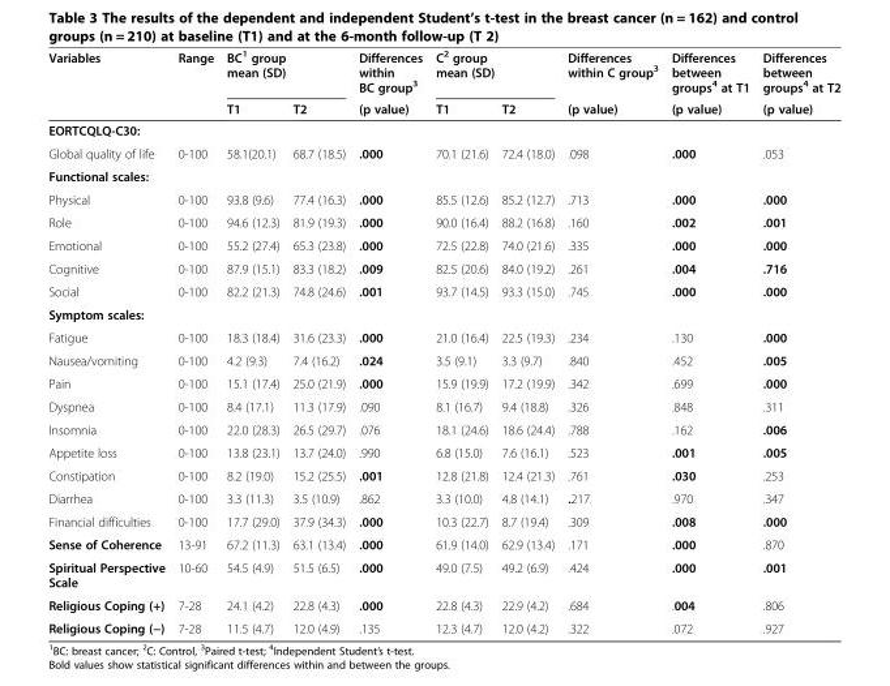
<table><thead><tr><td rowspan="2">Variables</td><td rowspan="2">Range</td><td colspan="2">BC<sup>1</sup> group mean (SD)</td><td rowspan="2">Differences within BC group<sup>3</sup> (p value)</td><td colspan="2">C<sup>2</sup> group mean (SD)</td><td rowspan="2">Differences within C group<sup>3</sup> (p value)</td><td rowspan="2">Differences between groups<sup>4</sup> at T1 (p value)</td><td rowspan="2">Differences between groups<sup>4</sup> at T2 (p value)</td></tr><tr><td>T1</td><td>T2</td><td>T1</td><td>T2</td></tr></thead><tbody><tr><td colspan="10">EORTCQLQ-C30:</td></tr><tr><td>Global quality of life</td><td>0-100</td><td>58.1(20.1)</td><td>68.7 (18.5)</td><td>.000</td><td>70.1 (21.6)</td><td>72.4 (18.0)</td><td>.098</td><td>.000</td><td>.053</td></tr><tr><td colspan="10">Functional scales:</td></tr><tr><td>Physical</td><td>0-100</td><td>93.8 (9.6)</td><td>77.4 (16.3)</td><td>.000</td><td>85.5 (12.6)</td><td>85.2 (12.7)</td><td>.713</td><td>.000</td><td>.000</td></tr><tr><td>Role</td><td>0-100</td><td>94.6 (12.3)</td><td>81.9 (19.3)</td><td>.000</td><td>90.0 (16.4)</td><td>88.2 (16.8)</td><td>.160</td><td>.002</td><td>.001</td></tr><tr><td>Emotional</td><td>0-100</td><td>55.2 (27.4)</td><td>65.3 (23.8)</td><td>.000</td><td>72.5 (22.8)</td><td>74.0 (21.6)</td><td>.335</td><td>.000</td><td>.000</td></tr><tr><td>Cognitive</td><td>0-100</td><td>87.9 (15.1)</td><td>83.3 (18.2)</td><td>.009</td><td>82.5 (20.6)</td><td>84.0 (19.2)</td><td>.261</td><td>.004</td><td>.716</td></tr><tr><td>Social</td><td>0-100</td><td>82.2 (21.3)</td><td>74.8 (24.6)</td><td>.001</td><td>93.7 (14.5)</td><td>93.3 (15.0)</td><td>.745</td><td>.000</td><td>.000</td></tr><tr><td colspan="10">Symptom scales:</td></tr><tr><td>Fatigue</td><td>0-100</td><td>18.3 (18.4)</td><td>31.6 (23.3)</td><td>.000</td><td>21.0 (16.4)</td><td>22.5 (19.3)</td><td>.234</td><td>.130</td><td>.000</td></tr><tr><td>Nausea/vomiting</td><td>0-100</td><td>4.2 (9.3)</td><td>7.4 (16.2)</td><td>.024</td><td>3.5 (9.1)</td><td>3.3 (9.7)</td><td>.840</td><td>.452</td><td>.005</td></tr><tr><td>Pain</td><td>0-100</td><td>15.1 (17.4)</td><td>25.0 (21.9)</td><td>.000</td><td>15.9 (19.9)</td><td>17.2 (19.9)</td><td>.342</td><td>.699</td><td>.000</td></tr><tr><td>Dyspnea</td><td>0-100</td><td>8.4 (17.1)</td><td>11.3 (17.9)</td><td>.090</td><td>8.1 (16.7)</td><td>9.4 (18.8)</td><td>.326</td><td>.848</td><td>.311</td></tr><tr><td>Insomnia</td><td>0-100</td><td>22.0 (28.3)</td><td>26.5 (29.7)</td><td>.076</td><td>18.1 (24.6)</td><td>18.6 (24.4)</td><td>.788</td><td>.162</td><td>.006</td></tr><tr><td>Appetite loss</td><td>0-100</td><td>13.8 (23.1)</td><td>13.7 (24.0)</td><td>.990</td><td>6.8 (15.0)</td><td>7.6 (16.1)</td><td>.523</td><td>.001</td><td>.005</td></tr><tr><td>Constipation</td><td>0-100</td><td>8.2 (19.0)</td><td>15.2 (25.5)</td><td>.001</td><td>12.8 (21.8)</td><td>12.4 (21.3)</td><td>.761</td><td>.030</td><td>.253</td></tr><tr><td>Diarrhea</td><td>0-100</td><td>3.3 (11.3)</td><td>3.5 (10.9)</td><td>.862</td><td>3.3 (10.0)</td><td>4.8 (14.1)</td><td>.217</td><td>.970</td><td>.347</td></tr><tr><td>Financial difficulties</td><td>0-100</td><td>17.7 (29.0)</td><td>37.9 (34.3)</td><td>.000</td><td>10.3 (22.7)</td><td>8.7 (19.4)</td><td>.309</td><td>.008</td><td>.000</td></tr><tr><td>Sense of Coherence</td><td>13-91</td><td>67.2 (11.3)</td><td>63.1 (13.4)</td><td>.000</td><td>61.9 (14.0)</td><td>62.9 (13.4)</td><td>.171</td><td>.000</td><td>.870</td></tr><tr><td>Spiritual Perspective Scale</td><td>10-60</td><td>54.5 (4.9)</td><td>51.5 (6.5)</td><td>.000</td><td>49.0 (7.5)</td><td>49.2 (6.9)</td><td>.424</td><td>.000</td><td>.001</td></tr><tr><td>Religious Coping (+)</td><td>7-28</td><td>24.1 (4.2)</td><td>22.8 (4.3)</td><td>.000</td><td>22.8 (4.3)</td><td>22.9 (4.2)</td><td>.684</td><td>.004</td><td>.806</td></tr><tr><td>Religious Coping (−)</td><td>7-28</td><td>11.5 (4.7)</td><td>12.0 (4.9)</td><td>.135</td><td>12.3 (4.7)</td><td>12.0 (4.2)</td><td>.322</td><td>.072</td><td>.927</td></tr></tbody></table>